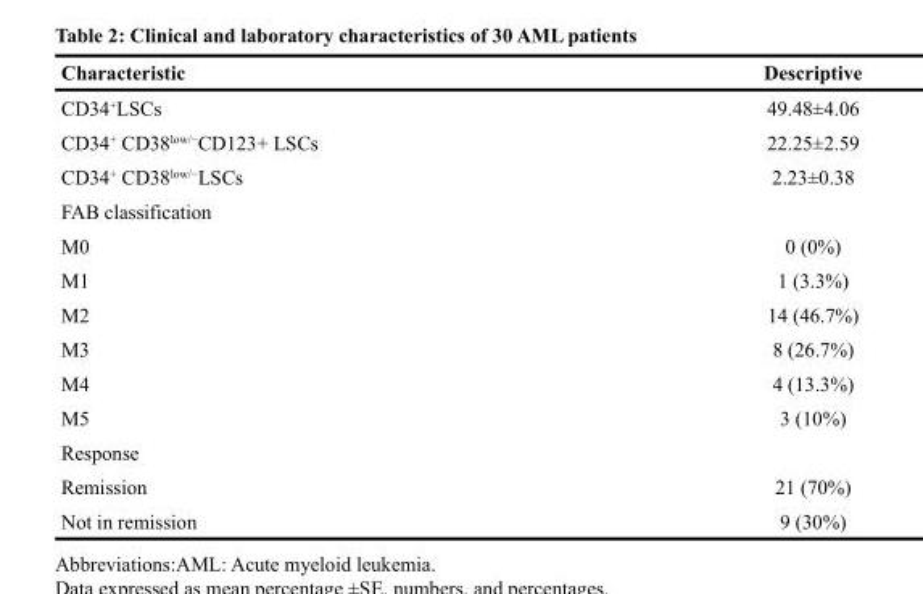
<table><thead><tr><td>Characteristic</td><td>Descriptive</td></tr></thead><tbody><tr><td>CD34<sup>+</sup>LSCs</td><td>49.48±4.06</td></tr><tr><td>CD34<sup>+</sup> CD38<sup>low/−</sup>CD123+ LSCs</td><td>22.25±2.59</td></tr><tr><td>CD34<sup>+</sup> CD38<sup>low/−</sup>LSCs</td><td>2.23±0.38</td></tr><tr><td colspan="2">FAB classification</td></tr><tr><td>M0</td><td>0 (0%)</td></tr><tr><td>M1</td><td>1 (3.3%)</td></tr><tr><td>M2</td><td>14 (46.7%)</td></tr><tr><td>M3</td><td>8 (26.7%)</td></tr><tr><td>M4</td><td>4 (13.3%)</td></tr><tr><td>M5</td><td>3 (10%)</td></tr><tr><td colspan="2">Response</td></tr><tr><td>Remission</td><td>21 (70%)</td></tr><tr><td>Not in remission</td><td>9 (30%)</td></tr></tbody></table>